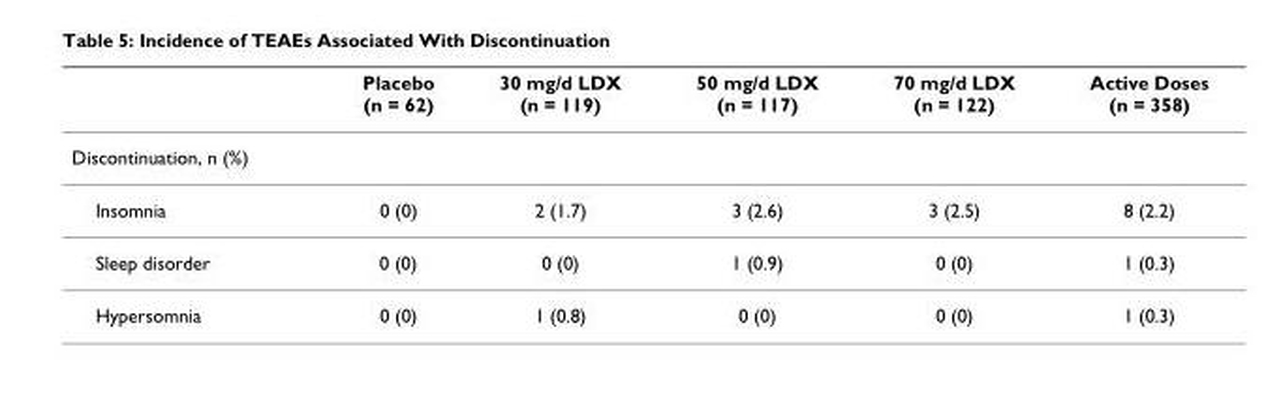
<table><thead><tr><td></td><td>Placebo (n = 62)</td><td>30 mg/d LDX (n = 119)</td><td>50 mg/d LDX (n = 117)</td><td>70 mg/d LDX (n = 122)</td><td>Active Doses (n = 358)</td></tr></thead><tbody><tr><td colspan="6">Discontinuation, n (%)</td></tr><tr><td>Insomnia</td><td>0 (0)</td><td>2 (1.7)</td><td>3 (2.6)</td><td>3 (2.5)</td><td>8 (2.2)</td></tr><tr><td>Sleep disorder</td><td>0 (0)</td><td>0 (0)</td><td>1 (0.9)</td><td>0 (0)</td><td>1 (0.3)</td></tr><tr><td>Hypersomnia</td><td>0 (0)</td><td>1 (0.8)</td><td>0 (0)</td><td>0 (0)</td><td>1 (0.3)</td></tr></tbody></table>